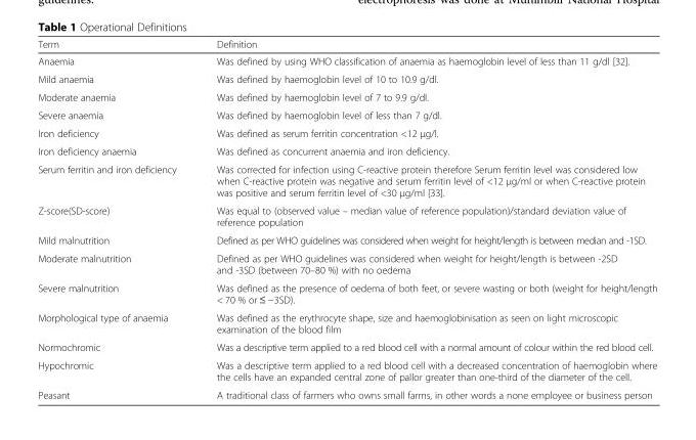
<table><thead><tr><td>Term</td><td>Definition</td></tr></thead><tbody><tr><td>Anaemia</td><td>Was defined by using WHO classification of anaemia as haemoglobin level of less than 11 g/dl [32].</td></tr><tr><td>Mild anaemia</td><td>Was defined by haemoglobin level of 10 to 10.9 g/dl.</td></tr><tr><td>Moderate anaemia</td><td>Was defined by haemoglobin level of 7 to 9.9 g/dl.</td></tr><tr><td>Severe anaemia</td><td>Was defined by haemoglobin level of less than 7 g/dl.</td></tr><tr><td>Iron deficiency</td><td>Was defined as serum ferritin concentration &lt;12 μg/l.</td></tr><tr><td>Iron deficiency anaemia</td><td>Was defined as concurrent anaemia and iron deficiency.</td></tr><tr><td>Serum ferritin and iron deficiency</td><td>Was corrected for infection using C-reactive protein therefore Serum ferritin level was considered low when C-reactive protein was negative and serum ferritin level of &lt;12 μg/ml or when C-reactive protein was positive and serum ferritin level of &lt;30 μg/ml [33].</td></tr><tr><td>Z-score(SD-score)</td><td>Was equal to (observed value – median value of reference population)/standard deviation value of reference population</td></tr><tr><td>Mild malnutrition</td><td>Defined as per WHO guidelines was considered when weight for height/length is between median and -1SD.</td></tr><tr><td>Moderate malnutrition</td><td>Defined as per WHO guidelines was considered when weight for height/length is between -2SD and -3SD (between 70–80 %) with no oedema</td></tr><tr><td>Severe malnutrition</td><td>Was defined as the presence of oedema of both feet, or severe wasting or both (weight for height/length &lt; 70 % or ≤ −3SD).</td></tr><tr><td>Morphological type of anaemia</td><td>Was defined as the erythrocyte shape, size and haemoglobinisation as seen on light microscopic examination of the blood film</td></tr><tr><td>Normochromic</td><td>Was a descriptive term applied to a red blood cell with a normal amount of colour within the red blood cell.</td></tr><tr><td>Hypochromic</td><td>Was a descriptive term applied to a red blood cell with a decreased concentration of haemoglobin where the cells have an expanded central zone of pallor greater than one-third of the diameter of the cell.</td></tr><tr><td>Peasant</td><td>A traditional class of farmers who owns small farms, in other words a none employee or business person</td></tr></tbody></table>